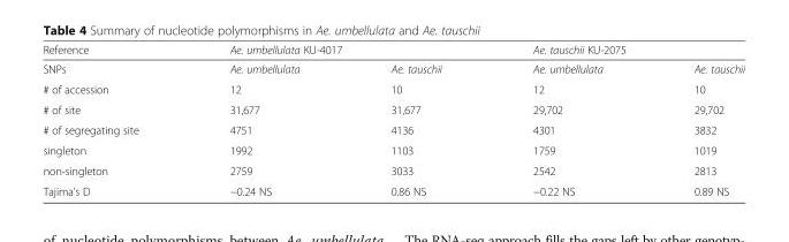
<table><thead><tr><td rowspan="2">Reference SNPs</td><td colspan="2">Ae. umbellulata KU-4017</td><td colspan="2">Ae. tauschii KU-2075</td></tr><tr><td>Ae. umbellulata</td><td>Ae. tauschii</td><td>Ae. umbellulata</td><td>Ae. tauschii</td></tr></thead><tbody><tr><td># of accession</td><td>12</td><td>10</td><td>12</td><td>10</td></tr><tr><td># of site</td><td>31,677</td><td>31,677</td><td>29,702</td><td>29,702</td></tr><tr><td># of segregating site</td><td>4751</td><td>4136</td><td>4301</td><td>3832</td></tr><tr><td>singleton</td><td>1992</td><td>1103</td><td>1759</td><td>1019</td></tr><tr><td>non-singleton</td><td>2759</td><td>3033</td><td>2542</td><td>2813</td></tr><tr><td>Tajima’s D</td><td>−0.24 NS</td><td>0.86 NS</td><td>−0.22 NS</td><td>0.89 NS</td></tr></tbody></table>